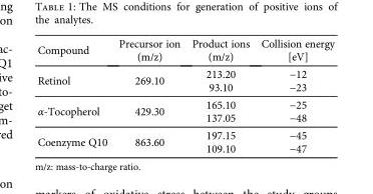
<table><thead><tr><td>Compound</td><td>Precursor ion (m/z)</td><td>Product ions (m/z)</td><td>Collision energy [eV]</td></tr></thead><tbody><tr><td>Retinol</td><td>269.10</td><td>213.20 93.10</td><td>−12 −23</td></tr><tr><td>α-Tocopherol</td><td>429.30</td><td>165.10 137.05</td><td>−25 −48</td></tr><tr><td>Coenzyme Q10</td><td>863.60</td><td>197.15 109.10</td><td>−45 −47</td></tr></tbody></table>